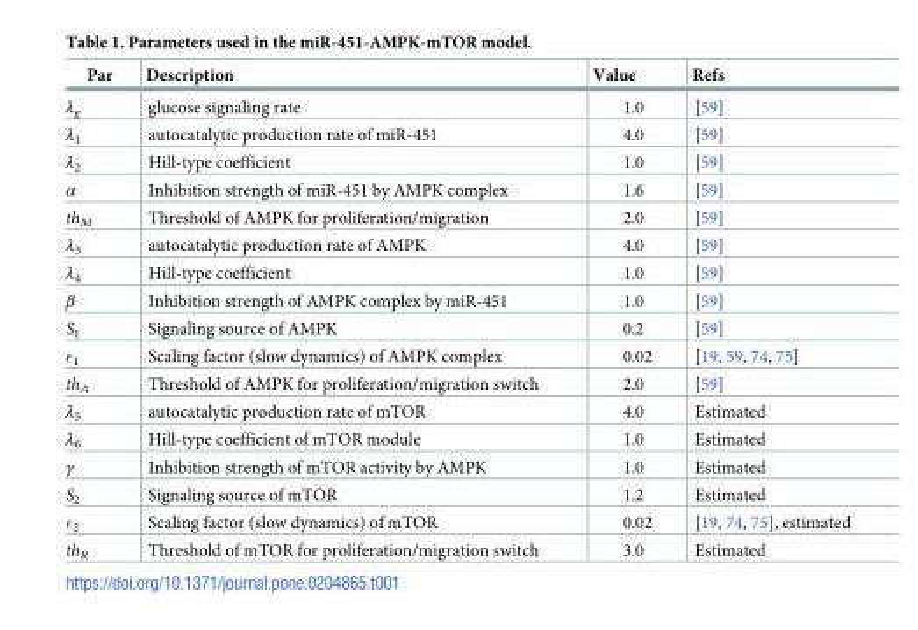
<table><thead><tr><td>Par</td><td>Description</td><td>Value</td><td>Refs</td></tr></thead><tbody><tr><td>λ<sub>g</sub></td><td>glucose signaling rate</td><td>1.0</td><td>[59]</td></tr><tr><td>λ<sub>1</sub></td><td>autocatalytic production rate of miR-451</td><td>4.0</td><td>[59]</td></tr><tr><td>λ<sub>2</sub></td><td>Hill-type coefficient</td><td>1.0</td><td>[59]</td></tr><tr><td>α</td><td>Inhibition strength of miR-451 by AMPK complex</td><td>1.6</td><td>[59]</td></tr><tr><td>th<sub>M</sub></td><td>Threshold of AMPK for proliferation/migration</td><td>2.0</td><td>[59]</td></tr><tr><td>λ<sub>3</sub></td><td>autocatalytic production rate of AMPK</td><td>4.0</td><td>[59]</td></tr><tr><td>λ<sub>4</sub></td><td>Hill-type coefficient</td><td>1.0</td><td>[59]</td></tr><tr><td>β</td><td>Inhibition strength of AMPK complex by miR-451</td><td>1.0</td><td>[59]</td></tr><tr><td>S<sub>1</sub></td><td>Signaling source of AMPK</td><td>0.2</td><td>[59]</td></tr><tr><td>ϵ<sub>1</sub></td><td>Scaling factor (slow dynamics) of AMPK complex</td><td>0.02</td><td>[19, 59, 74, 75]</td></tr><tr><td>th<sub>A</sub></td><td>Threshold of AMPK for proliferation/migration switch</td><td>2.0</td><td>[59]</td></tr><tr><td>λ<sub>5</sub></td><td>autocatalytic production rate of mTOR</td><td>4.0</td><td>Estimated</td></tr><tr><td>λ<sub>6</sub></td><td>Hill-type coefficient of mTOR module</td><td>1.0</td><td>Estimated</td></tr><tr><td>γ</td><td>Inhibition strength of mTOR activity by AMPK</td><td>1.0</td><td>Estimated</td></tr><tr><td>S<sub>2</sub></td><td>Signaling source of mTOR</td><td>1.2</td><td>Estimated</td></tr><tr><td>ϵ<sub>2</sub></td><td>Scaling factor (slow dynamics) of mTOR</td><td>0.02</td><td>[19, 74, 75], estimated</td></tr><tr><td>th<sub>R</sub></td><td>Threshold of mTOR for proliferation/migration switch</td><td>3.0</td><td>Estimated</td></tr></tbody></table>